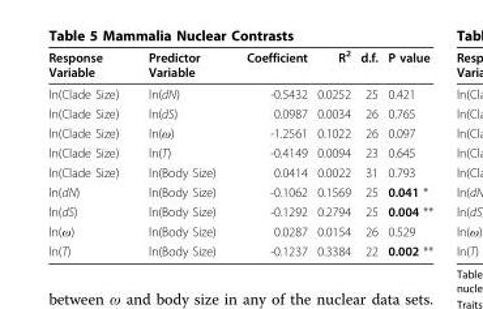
<table><thead><tr><td>Response Variable</td><td>Predictor Variable</td><td>Coefficient</td><td>R<sup>2</sup></td><td>d.f.</td><td>P value</td></tr></thead><tbody><tr><td>ln(Clade Size)</td><td>ln(dN)</td><td>-0.5432</td><td>0.0252</td><td>25</td><td>0.421</td></tr><tr><td>ln(Clade Size)</td><td>ln(dS)</td><td>0.0987</td><td>0.0034</td><td>26</td><td>0.765</td></tr><tr><td>ln(Clade Size)</td><td>ln(ω)</td><td>-1.2561</td><td>0.1022</td><td>26</td><td>0.097</td></tr><tr><td>ln(Clade Size)</td><td>ln(T)</td><td>-0.4149</td><td>0.0094</td><td>23</td><td>0.645</td></tr><tr><td>ln(Clade Size)</td><td>ln(Body Size)</td><td>0.0414</td><td>0.0022</td><td>31</td><td>0.793</td></tr><tr><td>ln(dN)</td><td>ln(Body Size)</td><td>-0.1062</td><td>0.1569</td><td>25</td><td>0.041 *</td></tr><tr><td>ln(dS)</td><td>ln(Body Size)</td><td>-0.1292</td><td>0.2794</td><td>25</td><td>0.004 **</td></tr><tr><td>ln(ω)</td><td>ln(Body Size)</td><td>0.0287</td><td>0.0154</td><td>26</td><td>0.529</td></tr><tr><td>ln(T)</td><td>ln(Body Size)</td><td>-0.1237</td><td>0.3384</td><td>22</td><td>0.002 **</td></tr></tbody></table>